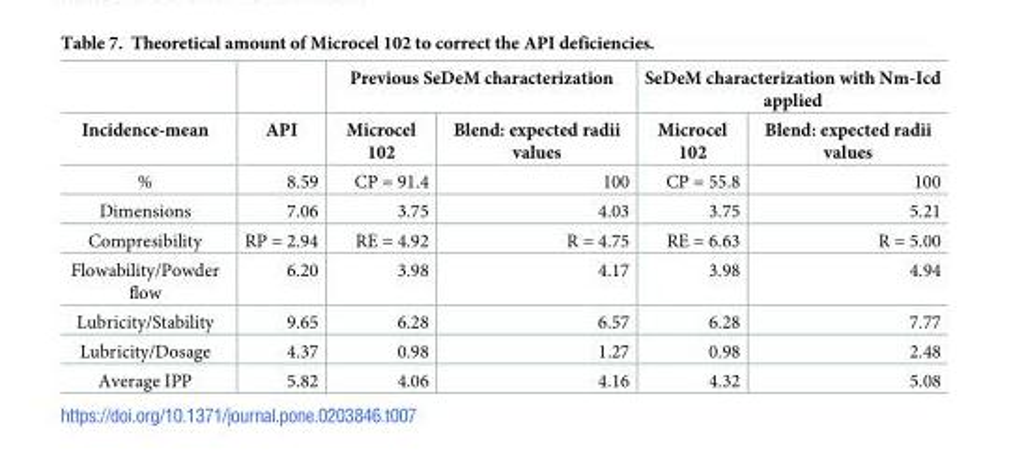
<table><thead><tr><td rowspan="2">Incidence-mean</td><td rowspan="2">API</td><td colspan="2">Previous SeDeM characterization</td><td colspan="2">SeDeM characterization with Nm-Icd applied</td></tr><tr><td>Microcel 102</td><td>Blend: expected radii values</td><td>Microcel 102</td><td>Blend: expected radii values</td></tr></thead><tbody><tr><td>%</td><td>8.59</td><td>CP = 91.4</td><td>100</td><td>CP = 55.8</td><td>100</td></tr><tr><td>Dimensions</td><td>7.06</td><td>3.75</td><td>4.03</td><td>3.75</td><td>5.21</td></tr><tr><td>Compresibility</td><td>RP = 2.94</td><td>RE = 4.92</td><td>R = 4.75</td><td>RE = 6.63</td><td>R = 5.00</td></tr><tr><td>Flowability/Powder flow</td><td>6.20</td><td>3.98</td><td>4.17</td><td>3.98</td><td>4.94</td></tr><tr><td>Lubricity/Stability</td><td>9.65</td><td>6.28</td><td>6.57</td><td>6.28</td><td>7.77</td></tr><tr><td>Lubricity/Dosage</td><td>4.37</td><td>0.98</td><td>1.27</td><td>0.98</td><td>2.48</td></tr><tr><td>Average IPP</td><td>5.82</td><td>4.06</td><td>4.16</td><td>4.32</td><td>5.08</td></tr></tbody></table>